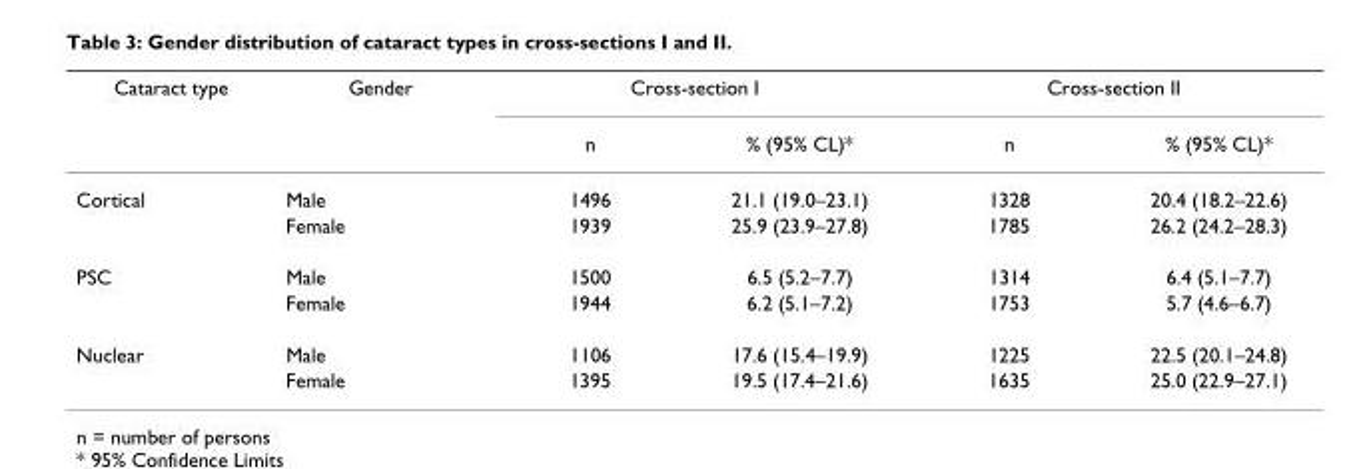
<table><thead><tr><td rowspan="2">Cataract type</td><td rowspan="2">Gender</td><td colspan="2">Cross-section I</td><td colspan="2">Cross-section II</td></tr><tr><td>n</td><td>% (95% CL)*</td><td>n</td><td>% (95% CL)*</td></tr></thead><tbody><tr><td rowspan="2">Cortical</td><td>Male</td><td>1496</td><td>21.1 (19.0–23.1)</td><td>1328</td><td>20.4 (18.2–22.6)</td></tr><tr><td>Female</td><td>1939</td><td>25.9 (23.9–27.8)</td><td>1785</td><td>26.2 (24.2–28.3)</td></tr><tr><td rowspan="2">PSC</td><td>Male</td><td>1500</td><td>6.5 (5.2–7.7)</td><td>1314</td><td>6.4 (5.1–7.7)</td></tr><tr><td>Female</td><td>1944</td><td>6.2 (5.1–7.2)</td><td>1753</td><td>5.7 (4.6–6.7)</td></tr><tr><td rowspan="2">Nuclear</td><td>Male</td><td>1106</td><td>17.6 (15.4–19.9)</td><td>1225</td><td>22.5 (20.1–24.8)</td></tr><tr><td>Female</td><td>1395</td><td>19.5 (17.4–21.6)</td><td>1635</td><td>25.0 (22.9–27.1)</td></tr></tbody></table>